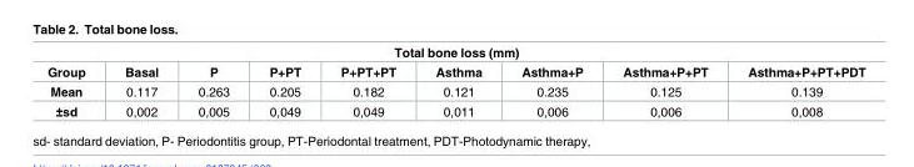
<table><thead><tr><td colspan="9">Total bone loss (mm)</td></tr><tr><td>Group</td><td>Basal</td><td>P</td><td>P+PT</td><td>P+PT+PT</td><td>Asthma</td><td>Asthma+P</td><td>Asthma+P+PT</td><td>Asthma+P+PT+PDT</td></tr></thead><tbody><tr><td>Mean</td><td>0.117</td><td>0.263</td><td>0.205</td><td>0.182</td><td>0.121</td><td>0.235</td><td>0.125</td><td>0.139</td></tr><tr><td>±sd</td><td>0,002</td><td>0,005</td><td>0,049</td><td>0,049</td><td>0,011</td><td>0,006</td><td>0,006</td><td>0,008</td></tr></tbody></table>